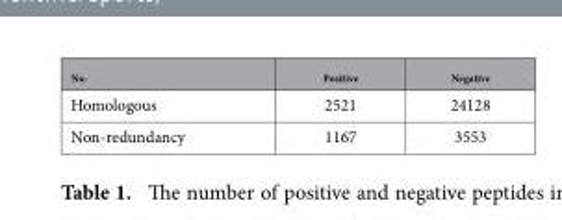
<table><thead><tr><td><sub>No.</sub></td><td><sub>Positive</sub></td><td><sub>Negative</sub></td></tr></thead><tbody><tr><td>Homologous</td><td><sub>2521</sub></td><td>24128</td></tr><tr><td>Non-redundancy</td><td><sub>1167</sub></td><td>3553</td></tr></tbody></table>